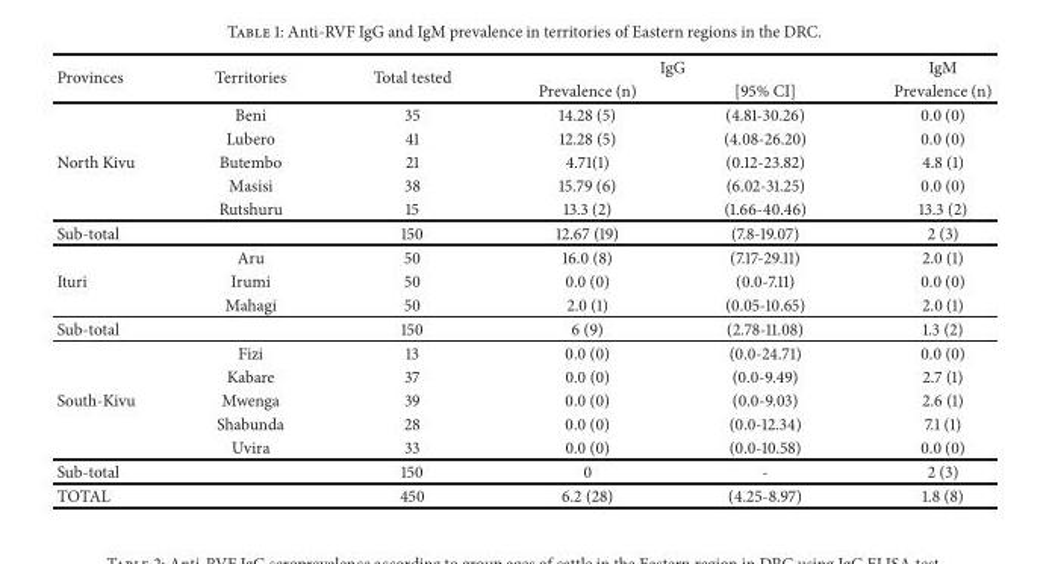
<table><thead><tr><td rowspan="2">Provinces</td><td rowspan="2">Territories</td><td rowspan="2">Total tested</td><td colspan="2">IgG</td><td rowspan="2">IgM Prevalence (n)</td></tr><tr><td>Prevalence (n)</td><td>[95% CI]</td></tr></thead><tbody><tr><td></td><td>Beni</td><td>35</td><td>14.28 (5)</td><td>(4.81-30.26)</td><td>0.0 (0)</td></tr><tr><td></td><td>Lubero</td><td>41</td><td>12.28 (5)</td><td>(4.08-26.20)</td><td>0.0 (0)</td></tr><tr><td rowspan="3">North Kivu</td><td>Butembo</td><td>21</td><td>4.71(1)</td><td>(0.12-23.82)</td><td>4.8 (1)</td></tr><tr><td>Masisi</td><td>38</td><td>15.79 (6)</td><td>(6.02-31.25)</td><td>0.0 (0)</td></tr><tr><td>Rutshuru</td><td>15</td><td>13.3 (2)</td><td>(1.66-40.46)</td><td>13.3 (2)</td></tr><tr><td rowspan="2">Sub-total</td><td></td><td>150</td><td>12.67 (19)</td><td>(7.8-19.07)</td><td>2 (3)</td></tr><tr><td>Aru</td><td>50</td><td>16.0 (8)</td><td>(7.17-29.11)</td><td>2.0 (1)</td></tr><tr><td rowspan="2">Ituri</td><td>Irumi</td><td>50</td><td>0.0 (0)</td><td>(0.0-7.11)</td><td>0.0 (0)</td></tr><tr><td>Mahagi</td><td>50</td><td>2.0 (1)</td><td>(0.05-10.65)</td><td>2.0 (1)</td></tr><tr><td rowspan="3">Sub-total</td><td></td><td>150</td><td>6 (9)</td><td>(2.78-11.08)</td><td>1.3 (2)</td></tr><tr><td>Fizi</td><td>13</td><td>0.0 (0)</td><td>(0.0-24.71)</td><td>0.0 (0)</td></tr><tr><td>Kabare</td><td>37</td><td>0.0 (0)</td><td>(0.0-9.49)</td><td>2.7 (1)</td></tr><tr><td rowspan="3">South-Kivu</td><td>Mwenga</td><td>39</td><td>0.0 (0)</td><td>(0.0-9.03)</td><td>2.6 (1)</td></tr><tr><td>Shabunda</td><td>28</td><td>0.0 (0)</td><td>(0.0-12.34)</td><td>7.1 (1)</td></tr><tr><td>Uvira</td><td>33</td><td>0.0 (0)</td><td>(0.0-10.58)</td><td>0.0 (0)</td></tr><tr><td>Sub-total</td><td></td><td>150</td><td>0</td><td>-</td><td>2 (3)</td></tr><tr><td>TOTAL</td><td></td><td>450</td><td>6.2 (28)</td><td>(4.25-8.97)</td><td>1.8 (8)</td></tr></tbody></table>